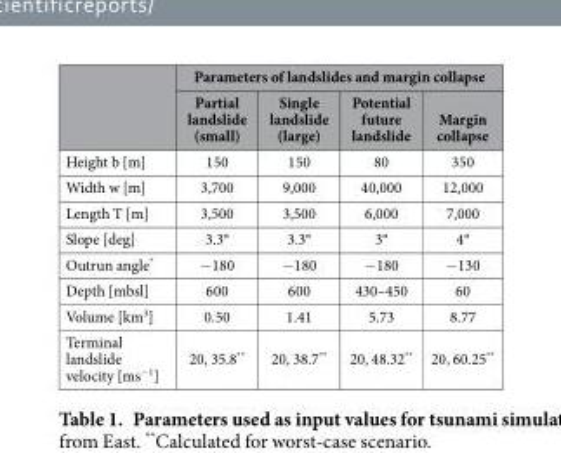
<table><thead><tr><td rowspan="2"></td><td colspan="4">Parameters of landslides and margin collapse</td></tr><tr><td>Partial landslide (small)</td><td>Single landslide (large)</td><td>Potential future landslide</td><td>Margin collapse</td></tr></thead><tbody><tr><td>Height b [m]</td><td>150</td><td>150</td><td>80</td><td>350</td></tr><tr><td>Width w [m]</td><td>3,700</td><td>9,000</td><td>40,000</td><td>12,000</td></tr><tr><td>Length T [m]</td><td>3,500</td><td>3,500</td><td>6,000</td><td>7,000</td></tr><tr><td>Slope [deg]</td><td>3.3°</td><td>3.3°</td><td>3°</td><td>4°</td></tr><tr><td>Outrun angle*</td><td>− 180</td><td>− 180</td><td>− 180</td><td>− 130</td></tr><tr><td>Depth [mbsl]</td><td>600</td><td>600</td><td>430–450</td><td>60</td></tr><tr><td>Volume [km<sup>3</sup>]</td><td>0.50</td><td>1.41</td><td>5.73</td><td>8.77</td></tr><tr><td>Terminal landslide velocity [ms<sup>−1</sup>]</td><td>20, 35.8**</td><td>20, 38.7**</td><td>20, 48.32**</td><td>20, 60.25**</td></tr></tbody></table>